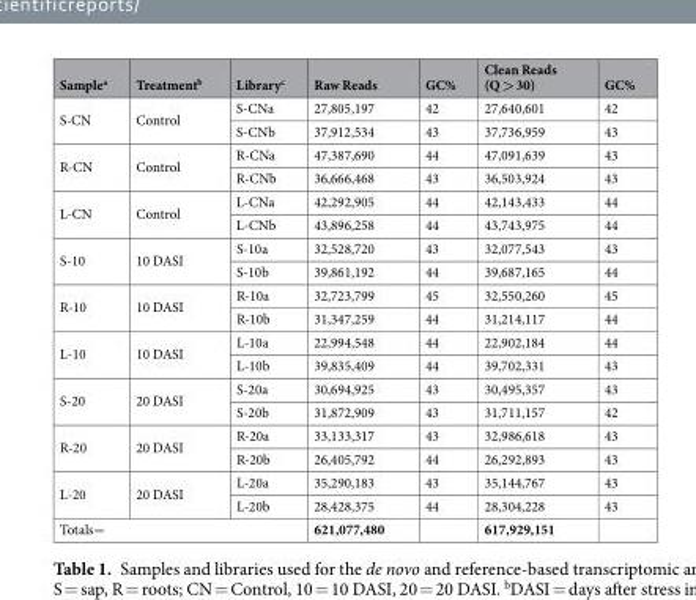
<table><thead><tr><td>Sample<sup>a</sup></td><td>Treatment<sup>b</sup></td><td>Library<sup>c</sup></td><td>Raw Reads</td><td>GC%</td><td>Clean Reads (Q &gt; 30)</td><td>GC%</td></tr></thead><tbody><tr><td rowspan="2">S-CN</td><td rowspan="2">Control</td><td>S-CNa</td><td>27,805,197</td><td>42</td><td>27,640,601</td><td>42</td></tr><tr><td>S-CNb</td><td>37,912,534</td><td>43</td><td>37,736,959</td><td>43</td></tr><tr><td rowspan="2">R-CN</td><td rowspan="2">Control</td><td>R-CNa</td><td>47,387,690</td><td>44</td><td>47,091,639</td><td>43</td></tr><tr><td>R-CNb</td><td>36,666,468</td><td>43</td><td>36,503,924</td><td>43</td></tr><tr><td rowspan="2">L-CN</td><td rowspan="2">Control</td><td>L-CNa</td><td>42,292,905</td><td>44</td><td>42,143,433</td><td>44</td></tr><tr><td>L-CNb</td><td>43,896,258</td><td>44</td><td>43,743,975</td><td>44</td></tr><tr><td rowspan="2">S-10</td><td rowspan="2">10 DASI</td><td>S-10a</td><td>32,528,720</td><td>43</td><td>32,077,543</td><td>43</td></tr><tr><td>S-10b</td><td>39,861,192</td><td>44</td><td>39,687,165</td><td>44</td></tr><tr><td rowspan="2">R-10</td><td rowspan="2">10 DASI</td><td>R-10a</td><td>32,723,799</td><td>45</td><td>32,550,260</td><td>45</td></tr><tr><td>R-10b</td><td>31,347,259</td><td>44</td><td>31,214,117</td><td>44</td></tr><tr><td rowspan="2">L-10</td><td rowspan="2">10 DASI</td><td>L-10a</td><td>22,994,548</td><td>44</td><td>22,902,184</td><td>44</td></tr><tr><td>L-10b</td><td>39,835,409</td><td>44</td><td>39,702,331</td><td>43</td></tr><tr><td rowspan="2">S-20</td><td rowspan="2">20 DASI</td><td>S-20a</td><td>30,694,925</td><td>43</td><td>30,495,357</td><td>43</td></tr><tr><td>S-20b</td><td>31,872,909</td><td>43</td><td>31,711,157</td><td>42</td></tr><tr><td rowspan="2">R-20</td><td rowspan="2">20 DASI</td><td>R-20a</td><td>33,133,317</td><td>43</td><td>32,986,618</td><td>43</td></tr><tr><td>R-20b</td><td>26,405,792</td><td>44</td><td>26,292,893</td><td>43</td></tr><tr><td rowspan="2">L-20</td><td rowspan="2">20 DASI</td><td>L-20a</td><td>35,290,183</td><td>43</td><td>35,144,767</td><td>43</td></tr><tr><td>L-20b</td><td>28,428,375</td><td>44</td><td>28,304,228</td><td>43</td></tr><tr><td colspan="3">Totals=</td><td>621,077,480</td><td></td><td>617,929,151</td><td></td></tr></tbody></table>